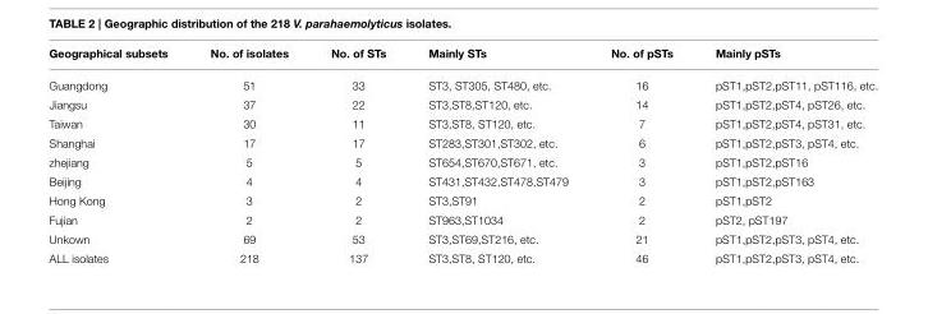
<table><thead><tr><td>Geographical subsets</td><td>No. of isolates</td><td>No. of STs</td><td>Mainly STs</td><td>No. of pSTs</td><td>Mainly pSTs</td></tr></thead><tbody><tr><td>Guangdong</td><td>51</td><td>33</td><td>ST3, ST305, ST480, etc.</td><td>16</td><td>pST1,pST2,pST11, pST116, etc.</td></tr><tr><td>Jiangsu</td><td>37</td><td>22</td><td>ST3,ST8,ST120, etc.</td><td>14</td><td>pST1,pST2,pST4, pST26, etc.</td></tr><tr><td>Taiwan</td><td>30</td><td>11</td><td>ST3,ST8, ST120, etc.</td><td>7</td><td>pST1,pST2,pST4, pST31, etc.</td></tr><tr><td>Shanghai</td><td>17</td><td>17</td><td>ST283,ST301,ST302, etc.</td><td>6</td><td>pST1,pST2,pST3, pST4, etc.</td></tr><tr><td>zhejiang</td><td>5</td><td>5</td><td>ST654,ST670,ST671, etc.</td><td>3</td><td>pST1,pST2,pST16</td></tr><tr><td>Beijing</td><td>4</td><td>4</td><td>ST431,ST432,ST478,ST479</td><td>3</td><td>pST1,pST2,pST163</td></tr><tr><td>Hong Kong</td><td>3</td><td>2</td><td>ST3,ST91</td><td>2</td><td>pST1,pST2</td></tr><tr><td>Fujian</td><td>2</td><td>2</td><td>ST963,ST1034</td><td>2</td><td>pST2, pST197</td></tr><tr><td>Unkown</td><td>69</td><td>53</td><td>ST3,ST69,ST216, etc.</td><td>21</td><td>pST1,pST2,pST3, pST4, etc.</td></tr><tr><td>ALL isolates</td><td>218</td><td>137</td><td>ST3,ST8, ST120, etc.</td><td>46</td><td>pST1,pST2,pST3, pST4, etc.</td></tr></tbody></table>